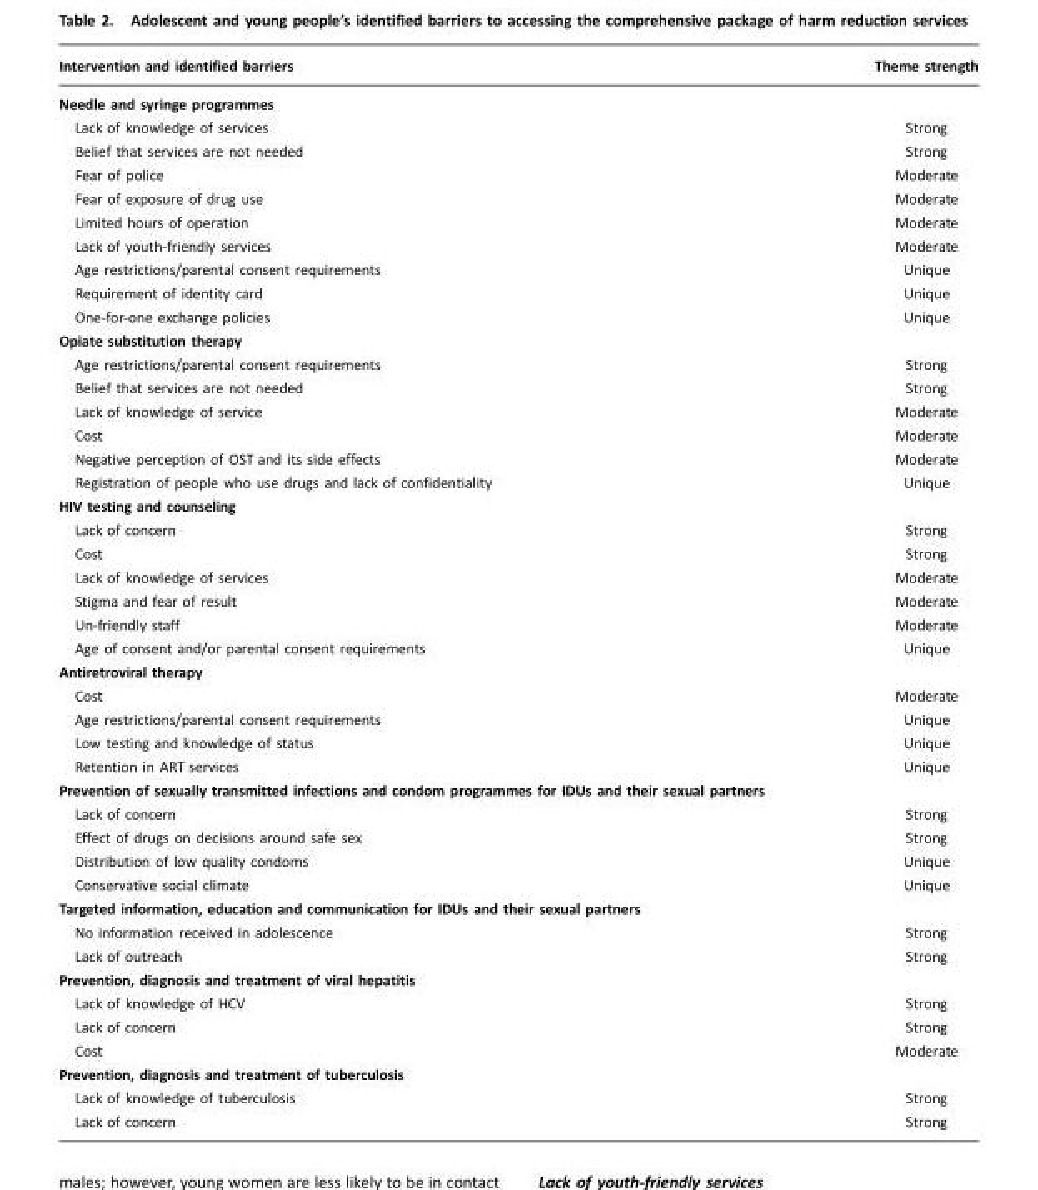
<table><thead><tr><td>Intervention and identified barriers</td><td>Theme strength</td></tr></thead><tbody><tr><td colspan="2">Needle and syringe programmes</td></tr><tr><td>Lack of knowledge of services</td><td>Strong</td></tr><tr><td>Belief that services are not needed</td><td>Strong</td></tr><tr><td>Fear of police</td><td>Moderate</td></tr><tr><td>Fear of exposure of drug use</td><td>Moderate</td></tr><tr><td>Limited hours of operation</td><td>Moderate</td></tr><tr><td>Lack of youth-friendly services</td><td>Moderate</td></tr><tr><td>Age restrictions/parental consent requirements</td><td>Unique</td></tr><tr><td>Requirement of identity card</td><td>Unique</td></tr><tr><td>One-for-one exchange policies</td><td>Unique</td></tr><tr><td colspan="2">Opiate substitution therapy</td></tr><tr><td>Age restrictions/parental consent requirements</td><td>Strong</td></tr><tr><td>Belief that services are not needed</td><td>Strong</td></tr><tr><td>Lack of knowledge of service</td><td>Moderate</td></tr><tr><td>Cost</td><td>Moderate</td></tr><tr><td>Negative perception of OST and its side effects</td><td>Moderate</td></tr><tr><td>Registration of people who use drugs and lack of confidentiality</td><td>Unique</td></tr><tr><td colspan="2">HIV testing and counseling</td></tr><tr><td>Lack of concern</td><td>Strong</td></tr><tr><td>Cost</td><td>Strong</td></tr><tr><td>Lack of knowledge of services</td><td>Moderate</td></tr><tr><td>Stigma and fear of result</td><td>Moderate</td></tr><tr><td>Un-friendly staff</td><td>Moderate</td></tr><tr><td>Age of consent and/or parental consent requirements</td><td>Unique</td></tr><tr><td colspan="2">Antiretroviral therapy</td></tr><tr><td>Cost</td><td>Moderate</td></tr><tr><td>Age restrictions/parental consent requirements</td><td>Unique</td></tr><tr><td>Low testing and knowledge of status</td><td>Unique</td></tr><tr><td>Retention in ART services</td><td>Unique</td></tr><tr><td colspan="2">Prevention of sexually transmitted infections and condom programmes for IDUs and their sexual partners</td></tr><tr><td>Lack of concern</td><td>Strong</td></tr><tr><td>Effect of drugs on decisions around safe sex</td><td>Strong</td></tr><tr><td>Distribution of low quality condoms</td><td>Unique</td></tr><tr><td>Conservative social climate</td><td>Unique</td></tr><tr><td colspan="2">Targeted information, education and communication for IDUs and their sexual partners</td></tr><tr><td>No information received in adolescence</td><td>Strong</td></tr><tr><td>Lack of outreach</td><td>Strong</td></tr><tr><td colspan="2">Prevention, diagnosis and treatment of viral hepatitis</td></tr><tr><td>Lack of knowledge of HCV</td><td>Strong</td></tr><tr><td>Lack of concern</td><td>Strong</td></tr><tr><td>Cost</td><td>Moderate</td></tr><tr><td colspan="2">Prevention, diagnosis and treatment of tuberculosis</td></tr><tr><td>Lack of knowledge of tuberculosis</td><td>Strong</td></tr><tr><td>Lack of concern</td><td>Strong</td></tr></tbody></table>